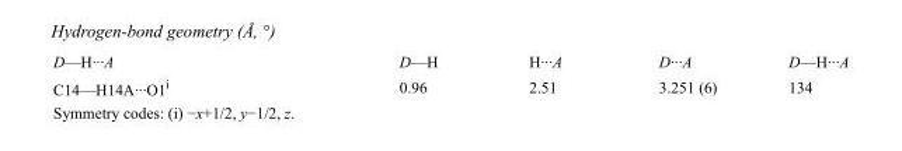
<table><tbody><tr><td>D—H···A</td><td>D—H</td><td>H···A</td><td>D···A</td><td>D—H···A</td></tr><tr><td>C14—H14A···O1<sup>i</sup></td><td>0.96</td><td>2.51</td><td>3.251 (6)</td><td>134</td></tr></tbody></table>